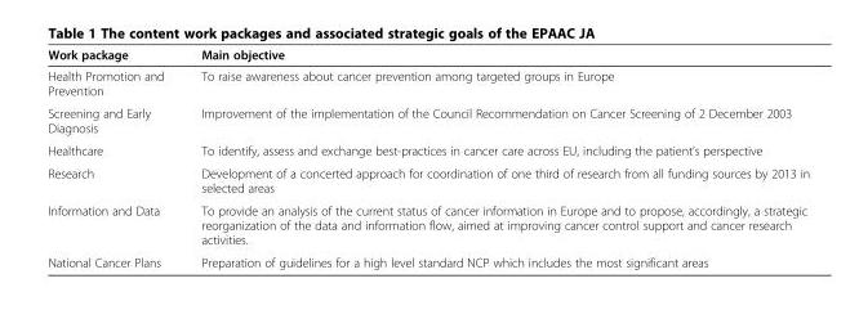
<table><thead><tr><td>Work package</td><td>Main objective</td></tr></thead><tbody><tr><td>Health Promotion and Prevention</td><td>To raise awareness about cancer prevention among targeted groups in Europe</td></tr><tr><td>Screening and Early Diagnosis</td><td>Improvement of the implementation of the Council Recommendation on Cancer Screening of 2 December 2003</td></tr><tr><td>Healthcare</td><td>To identify, assess and exchange best-practices in cancer care across EU, including the patient’s perspective</td></tr><tr><td>Research</td><td>Development of a concerted approach for coordination of one third of research from all funding sources by 2013 in selected areas</td></tr><tr><td>Information and Data</td><td>To provide an analysis of the current status of cancer information in Europe and to propose, accordingly, a strategic reorganization of the data and information flow, aimed at improving cancer control support and cancer research activities.</td></tr><tr><td>National Cancer Plans</td><td>Preparation of guidelines for a high level standard NCP which includes the most significant areas</td></tr></tbody></table>